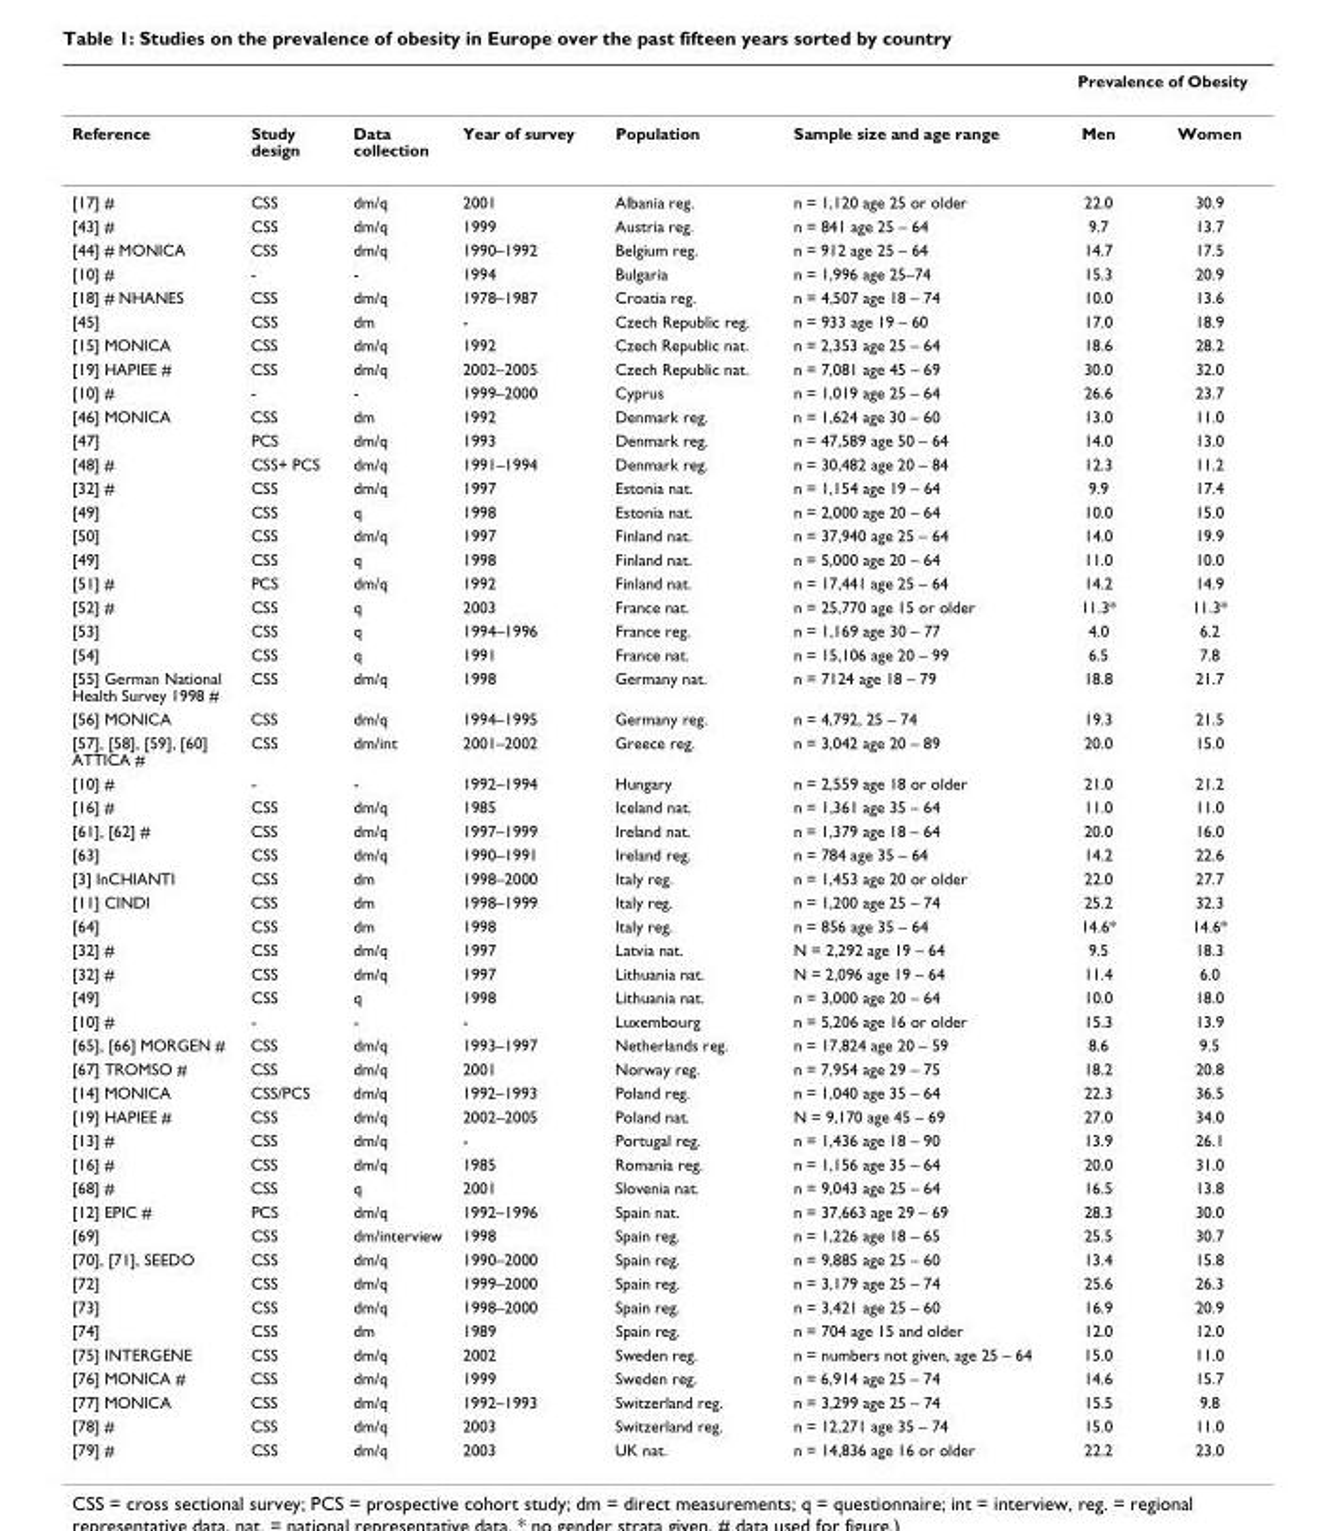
<table><thead><tr><td rowspan="2">Reference</td><td rowspan="2">Study design</td><td rowspan="2">Data collection</td><td rowspan="2">Year of survey</td><td rowspan="2">Population</td><td rowspan="2">Sample size and age range</td><td colspan="2">Prevalence of Obesity</td></tr><tr><td>Men</td><td>Women</td></tr></thead><tbody><tr><td>[17] #</td><td>CSS</td><td>dm/q</td><td>2001</td><td>Albania reg.</td><td>n = 1,120 age 25 or older</td><td>22.0</td><td>30.9</td></tr><tr><td>[43] #</td><td>CSS</td><td>dm/q</td><td>1999</td><td>Austria reg.</td><td>n = 841 age 25 – 64</td><td>9.7</td><td>13.7</td></tr><tr><td>[44] # MONICA</td><td>CSS</td><td>dm/q</td><td>1990–1992</td><td>Belgium reg.</td><td>n = 912 age 25 – 64</td><td>14.7</td><td>17.5</td></tr><tr><td>[10] #</td><td>-</td><td>-</td><td>1994</td><td>Bulgaria</td><td>n = 1,996 age 25–74</td><td>15.3</td><td>20.9</td></tr><tr><td>[18] # NHANES</td><td>CSS</td><td>dm/q</td><td>1978–1987</td><td>Croatia reg.</td><td>n = 4,507 age 18 – 74</td><td>10.0</td><td>13.6</td></tr><tr><td>[45]</td><td>CSS</td><td>dm</td><td>-</td><td>Czech Republic reg.</td><td>n = 933 age 19 – 60</td><td>17.0</td><td>18.9</td></tr><tr><td>[15] MONICA</td><td>CSS</td><td>dm/q</td><td>1992</td><td>Czech Republic nat.</td><td>n = 2,353 age 25 – 64</td><td>18.6</td><td>28.2</td></tr><tr><td>[19] HAPIEE #</td><td>CSS</td><td>dm/q</td><td>2002–2005</td><td>Czech Republic nat.</td><td>n = 7,081 age 45 – 69</td><td>30.0</td><td>32.0</td></tr><tr><td>[10] #</td><td>-</td><td>-</td><td>1999–2000</td><td>Cyprus</td><td>n = 1,019 age 25 – 64</td><td>26.6</td><td>23.7</td></tr><tr><td>[46] MONICA</td><td>CSS</td><td>dm</td><td>1992</td><td>Denmark reg.</td><td>n = 1,624 age 30 – 60</td><td>13.0</td><td>11.0</td></tr><tr><td>[47]</td><td>PCS</td><td>dm/q</td><td>1993</td><td>Denmark reg.</td><td>n = 47,589 age 50 – 64</td><td>14.0</td><td>13.0</td></tr><tr><td>[48] #</td><td>CSS+ PCS</td><td>dm/q</td><td>1991–1994</td><td>Denmark reg.</td><td>n = 30,482 age 20 – 84</td><td>12.3</td><td>11.2</td></tr><tr><td>[32] #</td><td>CSS</td><td>dm/q</td><td>1997</td><td>Estonia nat.</td><td>n = 1,154 age 19 – 64</td><td>9.9</td><td>17.4</td></tr><tr><td>[49]</td><td>CSS</td><td>q</td><td>1998</td><td>Estonia nat.</td><td>n = 2,000 age 20 – 64</td><td>10.0</td><td>15.0</td></tr><tr><td>[50]</td><td>CSS</td><td>dm/q</td><td>1997</td><td>Finland nat.</td><td>n = 37,940 age 25 – 64</td><td>14.0</td><td>19.9</td></tr><tr><td>[49]</td><td>CSS</td><td>q</td><td>1998</td><td>Finland nat.</td><td>n = 5,000 age 20 – 64</td><td>11.0</td><td>10.0</td></tr><tr><td>[51] #</td><td>PCS</td><td>dm/q</td><td>1992</td><td>Finland nat.</td><td>n = 17,441 age 25 – 64</td><td>14.2</td><td>14.9</td></tr><tr><td>[52] #</td><td>CSS</td><td>q</td><td>2003</td><td>France nat.</td><td>n = 25,770 age 15 or older</td><td>11.3*</td><td>11.3*</td></tr><tr><td>[53]</td><td>CSS</td><td>q</td><td>1994–1996</td><td>France reg.</td><td>n = 1,169 age 30 – 77</td><td>4.0</td><td>6.2</td></tr><tr><td>[54]</td><td>CSS</td><td>q</td><td>1991</td><td>France nat.</td><td>n = 15,106 age 20 – 99</td><td>6.5</td><td>7.8</td></tr><tr><td>[55] German National Health Survey 1998 #</td><td>CSS</td><td>dm/q</td><td>1998</td><td>Germany nat.</td><td>n = 7124 age 18 – 79</td><td>18.8</td><td>21.7</td></tr><tr><td>[56] MONICA</td><td>CSS</td><td>dm/q</td><td>1994–1995</td><td>Germany reg.</td><td>n = 4,792, 25 – 74</td><td>19.3</td><td>21.5</td></tr><tr><td>[57], [58], [59], [60] ATTICA #</td><td>CSS</td><td>dm/int</td><td>2001–2002</td><td>Greece reg.</td><td>n = 3,042 age 20 – 89</td><td>20.0</td><td>15.0</td></tr><tr><td>[10] #</td><td>-</td><td>-</td><td>1992–1994</td><td>Hungary</td><td>n = 2,559 age 18 or older</td><td>21.0</td><td>21.2</td></tr><tr><td>[16] #</td><td>CSS</td><td>dm/q</td><td>1985</td><td>Iceland nat.</td><td>n = 1,361 age 35 – 64</td><td>11.0</td><td>11.0</td></tr><tr><td>[61], [62] #</td><td>CSS</td><td>dm/q</td><td>1997–1999</td><td>Ireland nat.</td><td>n = 1,379 age 18 – 64</td><td>20.0</td><td>16.0</td></tr><tr><td>[63]</td><td>CSS</td><td>dm/q</td><td>1990–1991</td><td>Ireland reg.</td><td>n = 784 age 35 – 64</td><td>14.2</td><td>22.6</td></tr><tr><td>[3] InCHIANTI</td><td>CSS</td><td>dm</td><td>1998–2000</td><td>Italy reg.</td><td>n = 1,453 age 20 or older</td><td>22.0</td><td>27.7</td></tr><tr><td>[11] CINDI</td><td>CSS</td><td>dm</td><td>1998–1999</td><td>Italy reg.</td><td>n = 1,200 age 25 – 74</td><td>25.2</td><td>32.3</td></tr><tr><td>[64]</td><td>CSS</td><td>dm</td><td>1998</td><td>Italy reg.</td><td>n = 856 age 35 – 64</td><td>14.6*</td><td>14.6*</td></tr><tr><td>[32] #</td><td>CSS</td><td>dm/q</td><td>1997</td><td>Latvia nat.</td><td>N = 2,292 age 19 – 64</td><td>9.5</td><td>18.3</td></tr><tr><td>[32] #</td><td>CSS</td><td>dm/q</td><td>1997</td><td>Lithuania nat.</td><td>N = 2,096 age 19 – 64</td><td>11.4</td><td>6.0</td></tr><tr><td>[49]</td><td>CSS</td><td>q</td><td>1998</td><td>Lithuania nat.</td><td>n = 3,000 age 20 – 64</td><td>10.0</td><td>18.0</td></tr><tr><td>[10] #</td><td>-</td><td>-</td><td>-</td><td>Luxembourg</td><td>n = 5,206 age 16 or older</td><td>15.3</td><td>13.9</td></tr><tr><td>[65], [66] MORGEN #</td><td>CSS</td><td>dm/q</td><td>1993–1997</td><td>Netherlands reg.</td><td>n = 17,824 age 20 – 59</td><td>8.6</td><td>9.5</td></tr><tr><td>[67] TROMSO #</td><td>CSS</td><td>dm/q</td><td>2001</td><td>Norway reg.</td><td>n = 7,954 age 29 – 75</td><td>18.2</td><td>20.8</td></tr><tr><td>[14] MONICA</td><td>CSS/PCS</td><td>dm/q</td><td>1992–1993</td><td>Poland reg.</td><td>n = 1,040 age 35 – 64</td><td>22.3</td><td>36.5</td></tr><tr><td>[19] HAPIEE #</td><td>CSS</td><td>dm/q</td><td>2002–2005</td><td>Poland nat.</td><td>N = 9,170 age 45 – 69</td><td>27.0</td><td>34.0</td></tr><tr><td>[13] #</td><td>CSS</td><td>dm/q</td><td>-</td><td>Portugal reg.</td><td>n = 1,436 age 18 – 90</td><td>13.9</td><td>26.1</td></tr><tr><td>[16] #</td><td>CSS</td><td>dm/q</td><td>1985</td><td>Romania reg.</td><td>n = 1,156 age 35 – 64</td><td>20.0</td><td>31.0</td></tr><tr><td>[68] #</td><td>CSS</td><td>q</td><td>2001</td><td>Slovenia nat.</td><td>n = 9,043 age 25 – 64</td><td>16.5</td><td>13.8</td></tr><tr><td>[12] EPIC #</td><td>PCS</td><td>dm/q</td><td>1992–1996</td><td>Spain nat.</td><td>n = 37,663 age 29 – 69</td><td>28.3</td><td>30.0</td></tr><tr><td>[69]</td><td>CSS</td><td>dm/interview</td><td>1998</td><td>Spain reg.</td><td>n = 1,226 age 18 – 65</td><td>25.5</td><td>30.7</td></tr><tr><td>[70], [71], SEEDO</td><td>CSS</td><td>dm/q</td><td>1990–2000</td><td>Spain reg.</td><td>n = 9,885 age 25 – 60</td><td>13.4</td><td>15.8</td></tr><tr><td>[72]</td><td>CSS</td><td>dm/q</td><td>1999–2000</td><td>Spain reg.</td><td>n = 3,179 age 25 – 74</td><td>25.6</td><td>26.3</td></tr><tr><td>[73]</td><td>CSS</td><td>dm/q</td><td>1998–2000</td><td>Spain reg.</td><td>n = 3,421 age 25 – 60</td><td>16.9</td><td>20.9</td></tr><tr><td>[74]</td><td>CSS</td><td>dm</td><td>1989</td><td>Spain reg.</td><td>n = 704 age 15 and older</td><td>12.0</td><td>12.0</td></tr><tr><td>[75] INTERGENE</td><td>CSS</td><td>dm/q</td><td>2002</td><td>Sweden reg.</td><td>n = numbers not given, age 25 – 64</td><td>15.0</td><td>11.0</td></tr><tr><td>[76] MONICA #</td><td>CSS</td><td>dm/q</td><td>1999</td><td>Sweden reg.</td><td>n = 6,914 age 25 – 74</td><td>14.6</td><td>15.7</td></tr><tr><td>[77] MONICA</td><td>CSS</td><td>dm/q</td><td>1992–1993</td><td>Switzerland reg.</td><td>n = 3,299 age 25 – 74</td><td>15.5</td><td>9.8</td></tr><tr><td>[78] #</td><td>CSS</td><td>dm/q</td><td>2003</td><td>Switzerland reg.</td><td>n = 12,271 age 35 – 74</td><td>15.0</td><td>11.0</td></tr><tr><td>[79] #</td><td>CSS</td><td>dm/q</td><td>2003</td><td>UK nat.</td><td>n = 14,836 age 16 or older</td><td>22.2</td><td>23.0</td></tr></tbody></table>